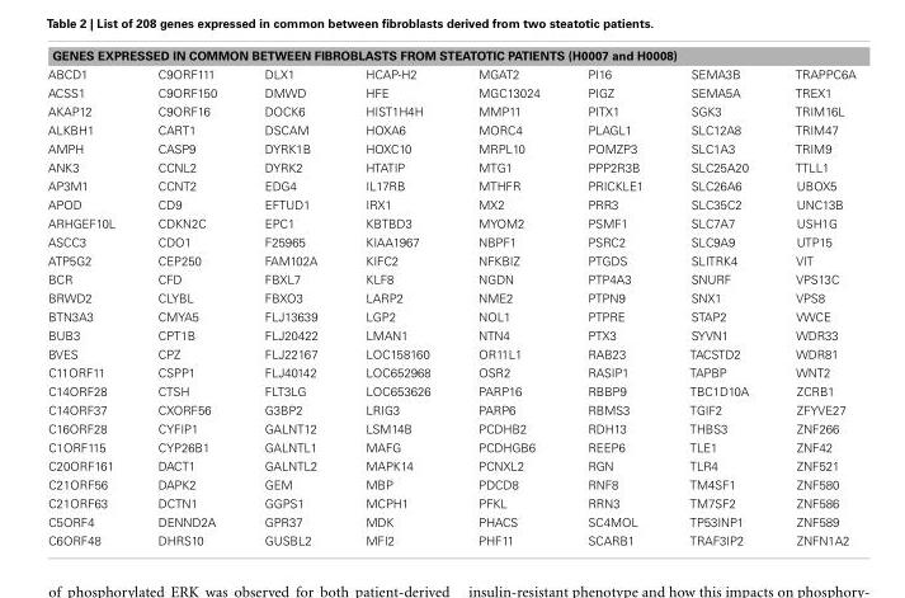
<table><tbody><tr><td colspan="8">GENES EXPRESSED IN COMMON BETWEEN FIBROBLASTS FROM STEATOTIC PATIENTS (H0007 and H0008)</td></tr><tr><td>ABCD1</td><td>C9ORF111</td><td>DLX1</td><td>HCAP-H2</td><td>MGAT2</td><td>PI16</td><td>SEMA3B</td><td>TRAPPC6A</td></tr><tr><td>ACSS1</td><td>C9ORF150</td><td>DMWD</td><td>HFE</td><td>MGC13024</td><td>PIGZ</td><td>SEMA5A</td><td>TREX1</td></tr><tr><td>AKAP12</td><td>C9ORF16</td><td>DOCK6</td><td>HIST1H4H</td><td>MMP11</td><td>PITX1</td><td>SGK3</td><td>TRIM16L</td></tr><tr><td>ALKBH1</td><td>CART1</td><td>DSCAM</td><td>HOXA6</td><td>MORC4</td><td>PLAGL1</td><td>SLC12A8</td><td>TRIM47</td></tr><tr><td>AMPH</td><td>CASP9</td><td>DYRK1B</td><td>HOXC10</td><td>MRPL10</td><td>POMZP3</td><td>SLC1A3</td><td>TRIM9</td></tr><tr><td>ANK3</td><td>CCNL2</td><td>DYRK2</td><td>HTATIP</td><td>MTG1</td><td>PPP2R3B</td><td>SLC25A20</td><td>TTLL1</td></tr><tr><td>AP3M1</td><td>CCNT2</td><td>EDG4</td><td>IL17RB</td><td>MTHFR</td><td>PRICKLE1</td><td>SLC26A6</td><td>UBOX5</td></tr><tr><td>APOD</td><td>CD9</td><td>EFTUD1</td><td>IRX1</td><td>MX2</td><td>PRR3</td><td>SLC35C2</td><td>UNC13B</td></tr><tr><td>ARHGEF10L</td><td>CDKN2C</td><td>EPC1</td><td>KBTBD3</td><td>MYOM2</td><td>PSMF1</td><td>SLC7A7</td><td>USH1G</td></tr><tr><td>ASCC3</td><td>CDO1</td><td>F25965</td><td>KIAA1967</td><td>NBPF1</td><td>PSRC2</td><td>SLC9A9</td><td>UTP15</td></tr><tr><td>ATP5G2</td><td>CEP250</td><td>FAM102A</td><td>KIFC2</td><td>NFKBIZ</td><td>PTGDS</td><td>SLITRK4</td><td>VIT</td></tr><tr><td>BCR</td><td>CFD</td><td>FBXL7</td><td>KLF8</td><td>NGDN</td><td>PTP4A3</td><td>SNURF</td><td>VPS13C</td></tr><tr><td>BRWD2</td><td>CLYBL</td><td>FBXO3</td><td>LARP2</td><td>NME2</td><td>PTPN9</td><td>SNX1</td><td>VPS8</td></tr><tr><td>BTN3A3</td><td>CMYA5</td><td>FLJ13639</td><td>LGP2</td><td>NOL1</td><td>PTPRE</td><td>STAP2</td><td>VWCE</td></tr><tr><td>BUB3</td><td>CPT1B</td><td>FLJ20422</td><td>LMAN1</td><td>NTN4</td><td>PTX3</td><td>SYVN1</td><td>WDR33</td></tr><tr><td>BVES</td><td>CPZ</td><td>FLJ22167</td><td>LOC158160</td><td>OR11L1</td><td>RAB23</td><td>TACSTD2</td><td>WDR81</td></tr><tr><td>C11ORF11</td><td>CSPP1</td><td>FLJ40142</td><td>LOC652968</td><td>OSR2</td><td>RASIP1</td><td>TAPBP</td><td>WNT2</td></tr><tr><td>C14ORF28</td><td>CTSH</td><td>FLT3LG</td><td>LOC653626</td><td>PARP16</td><td>RBBP9</td><td>TBC1D10A</td><td>ZCRB1</td></tr><tr><td>C14ORF37</td><td>CXORF56</td><td>G3BP2</td><td>LRIG3</td><td>PARP6</td><td>RBMS3</td><td>TGIF2</td><td>ZFYVE27</td></tr><tr><td>C16ORF28</td><td>CYFIP1</td><td>GALNT12</td><td>LSM14B</td><td>PCDHB2</td><td>RDH13</td><td>THBS3</td><td>ZNF266</td></tr><tr><td>C1ORF115</td><td>CYP26B1</td><td>GALNTL1</td><td>MAFG</td><td>PCDHGB6</td><td>REEP6</td><td>TLE1</td><td>ZNF42</td></tr><tr><td>C20ORF161</td><td>DACT1</td><td>GALNTL2</td><td>MAPK14</td><td>PCNXL2</td><td>RGN</td><td>TLR4</td><td>ZNF521</td></tr><tr><td>C21ORF56</td><td>DAPK2</td><td>GEM</td><td>MBP</td><td>PDCD8</td><td>RNF8</td><td>TM4SF1</td><td>ZNF580</td></tr><tr><td>C21ORF63</td><td>DCTN1</td><td>GGPS1</td><td>MCPH1</td><td>PFKL</td><td>RRN3</td><td>TM7SF2</td><td>ZNF586</td></tr><tr><td>C5ORF4</td><td>DENND2A</td><td>GPR37</td><td>MDK</td><td>PHACS</td><td>SC4MOL</td><td>TP53INP1</td><td>ZNF589</td></tr><tr><td>C6ORF48</td><td>DHRS10</td><td>GUSBL2</td><td>MFI2</td><td>PHF11</td><td>SCARB1</td><td>TRAF3IP2</td><td>ZNFN1A2</td></tr></tbody></table>